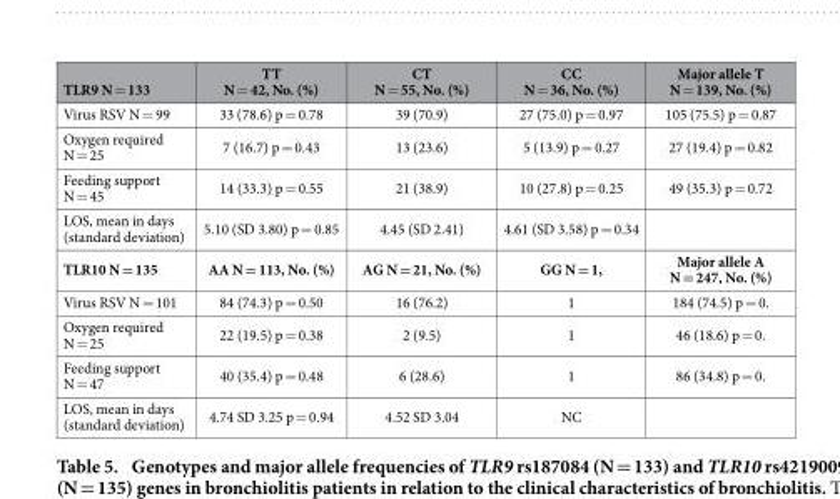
<table><thead><tr><td>TLR9 N = 133</td><td>TT N = 42, No. (%)</td><td>CT N = 55, No. (%)</td><td>CC N = 36, No. (%)</td><td>Major allele T N = 139, No. (%)</td></tr></thead><tbody><tr><td>Virus RSV N = 99</td><td>33 (78.6) p = 0.78</td><td>39 (70.9)</td><td>27 (75.0) p = 0.97</td><td>105 (75.5) p = 0.87</td></tr><tr><td>Oxygen required N = 25</td><td>7 (16.7) p = 0.43</td><td>13 (23.6)</td><td>5 (13.9) p = 0.27</td><td>27 (19.4) p = 0.82</td></tr><tr><td>Feeding support N = 45</td><td>14 (33.3) p = 0.55</td><td>21 (38.9)</td><td>10 (27.8) p = 0.25</td><td>49 (35.3) p = 0.72</td></tr><tr><td>LOS, mean in days (standard deviation)</td><td>5.10 (SD 3.80) p = 0.85</td><td>4.45 (SD 2.41)</td><td>4.61 (SD 3.58) p = 0.34</td><td></td></tr><tr><td>TLR10 N = 135</td><td>AA N = 113, No. (%)</td><td>AG N = 21, No. (%)</td><td>GG N = 1,</td><td>Major allele A N = 247, No. (%)</td></tr><tr><td>Virus RSV N = 101</td><td>84 (74.3) p = 0.50</td><td>16 (76.2)</td><td>1</td><td>184 (74.5) p = 0.</td></tr><tr><td>Oxygen required N = 25</td><td>22 (19.5) p = 0.38</td><td>2 (9.5)</td><td>1</td><td>46 (18.6) p = 0.</td></tr><tr><td>Feeding support N = 47</td><td>40 (35.4) p = 0.48</td><td>6 (28.6)</td><td>1</td><td>86 (34.8) p = 0.</td></tr><tr><td>LOS, mean in days (standard deviation)</td><td>4.74 SD 3.25 p = 0.94</td><td>4.52 SD 3.04</td><td>NC</td><td></td></tr></tbody></table>